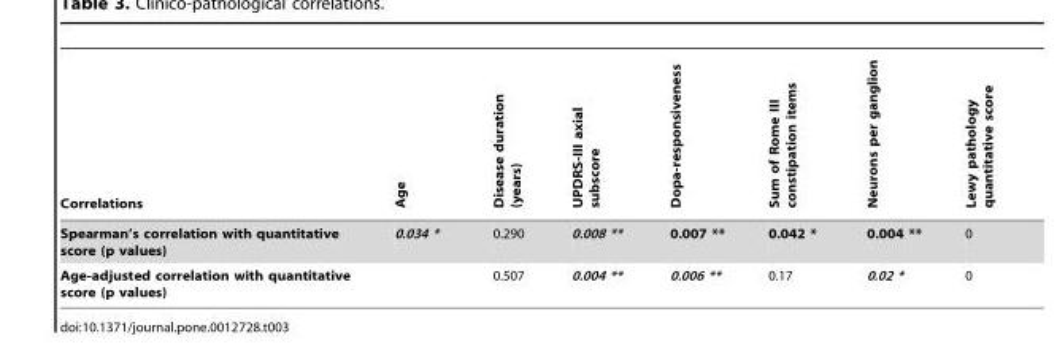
<table><thead><tr><td>Correlations</td><td>Age</td><td>Disease duration (years)</td><td>UPDRS-III axial subscore</td><td>Dopa-responsiveness</td><td>Sum of Rome III constipation items</td><td>Neurons per ganglion</td><td>Lewy pathology quantitative score</td></tr></thead><tbody><tr><td>Spearman’s correlation with quantitative score (p values)</td><td>0.034 *</td><td>0.290</td><td>0.008 **</td><td>0.007 **</td><td>0.042 *</td><td>0.004 **</td><td>0</td></tr><tr><td>Age-adjusted correlation with quantitative score (p values)</td><td></td><td>0.507</td><td>0.004 **</td><td>0.006 **</td><td>0.17</td><td>0.02 *</td><td>0</td></tr></tbody></table>